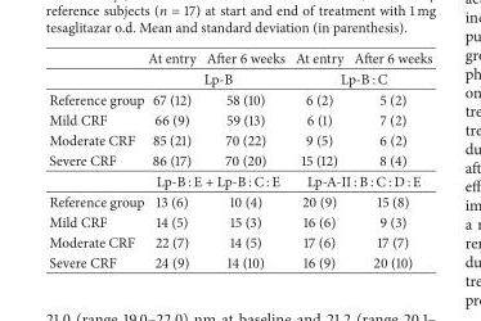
<table><thead><tr><td></td><td>At entry</td><td>After 6 weeks</td><td>At entry</td><td>After 6 weeks</td></tr></thead><tbody><tr><td></td><td colspan="2">Lp-B</td><td colspan="2">Lp-B : C</td></tr><tr><td>Reference group</td><td>67 (12)</td><td>58 (10)</td><td>6 (2)</td><td>5 (2)</td></tr><tr><td>Mild CRF</td><td>66 (9)</td><td>59 (13)</td><td>6 (1)</td><td>7 (2)</td></tr><tr><td>Moderate CRF</td><td>85 (21)</td><td>70 (22)</td><td>9 (5)</td><td>6 (2)</td></tr><tr><td rowspan="2">Severe CRF</td><td>86 (17)</td><td>70 (20)</td><td>15 (12)</td><td>8 (4)</td></tr><tr><td colspan="2">Lp-B : E + Lp-B : C : E</td><td colspan="2">Lp-A-II : B : C : D : E</td></tr><tr><td>Reference group</td><td>13 (6)</td><td>10 (4)</td><td>20 (9)</td><td>15 (8)</td></tr><tr><td>Mild CRF</td><td>14 (5)</td><td>15 (3)</td><td>16 (6)</td><td>9 (3)</td></tr><tr><td>Moderate CRF</td><td>22 (7)</td><td>14 (5)</td><td>17 (6)</td><td>17 (7)</td></tr><tr><td>Severe CRF</td><td>24 (9)</td><td>14 (10)</td><td>16 (9)</td><td>20 (10)</td></tr></tbody></table>